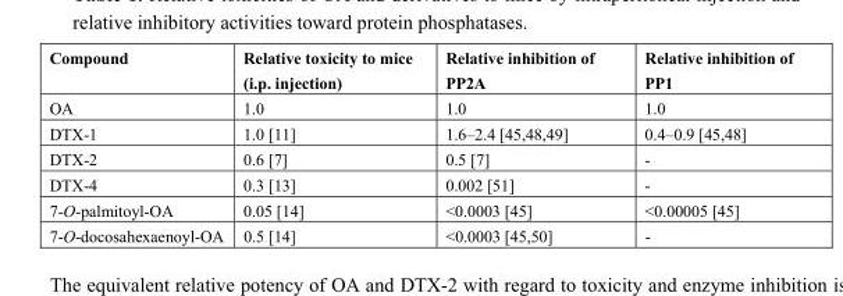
<table><thead><tr><td>Compound</td><td>Relative toxicity to mice (i.p. injection)</td><td>Relative inhibition of PP2A</td><td>Relative inhibition of PP1</td></tr></thead><tbody><tr><td>OA</td><td>1.0</td><td>1.0</td><td>1.0</td></tr><tr><td>DTX-1</td><td>1.0 [11]</td><td>1.6–2.4 [45,48,49]</td><td>0.4–0.9 [45,48]</td></tr><tr><td>DTX-2</td><td>0.6 [7]</td><td>0.5 [7]</td><td>-</td></tr><tr><td>DTX-4</td><td>0.3 [13]</td><td>0.002 [51]</td><td>-</td></tr><tr><td>7-O-palmitoyl-OA</td><td>0.05 [14]</td><td>&lt;0.0003 [45]</td><td>&lt;0.00005 [45]</td></tr><tr><td>7-O-docosahexaenoyl-OA</td><td>0.5 [14]</td><td>&lt;0.0003 [45,50]</td><td>-</td></tr></tbody></table>